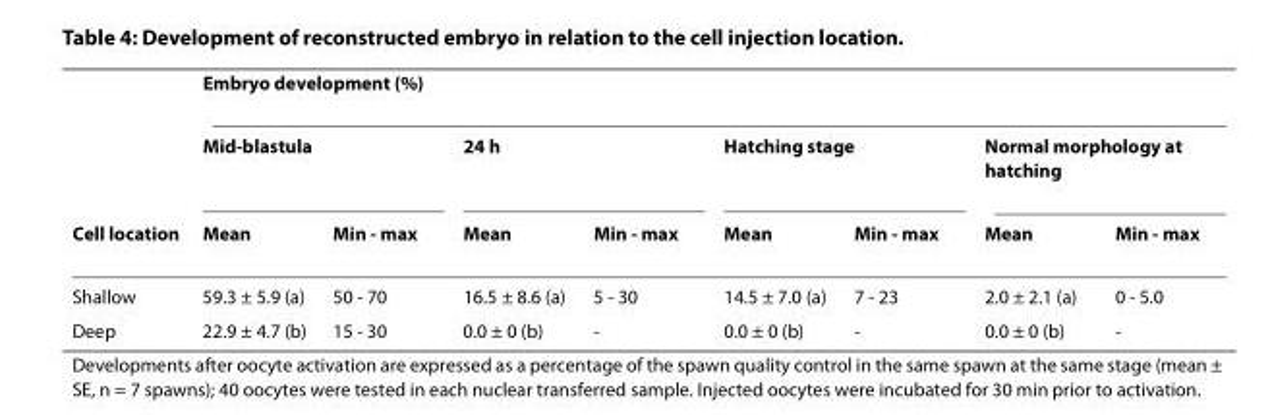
<table><thead><tr><td rowspan="3">Cell location</td><td colspan="8">Embryo development (%)</td></tr><tr><td colspan="2">Mid-blastula</td><td colspan="2">24 h</td><td colspan="2">Hatching stage</td><td colspan="2">Normal morphology at hatching</td></tr><tr><td>Mean</td><td>Min - max</td><td>Mean</td><td>Min - max</td><td>Mean</td><td>Min - max</td><td>Mean</td><td>Min - max</td></tr></thead><tbody><tr><td>Shallow</td><td>59.3 ± 5.9 (a)</td><td>50 - 70</td><td>16.5 ± 8.6 (a)</td><td>5 - 30</td><td>14.5 ± 7.0 (a)</td><td>7 - 23</td><td>2.0 ± 2.1 (a)</td><td>0 - 5.0</td></tr><tr><td>Deep</td><td>22.9 ± 4.7 (b)</td><td>15 - 30</td><td>0.0 ± 0 (b)</td><td>-</td><td>0.0 ± 0 (b)</td><td>-</td><td>0.0 ± 0 (b)</td><td>-</td></tr></tbody></table>